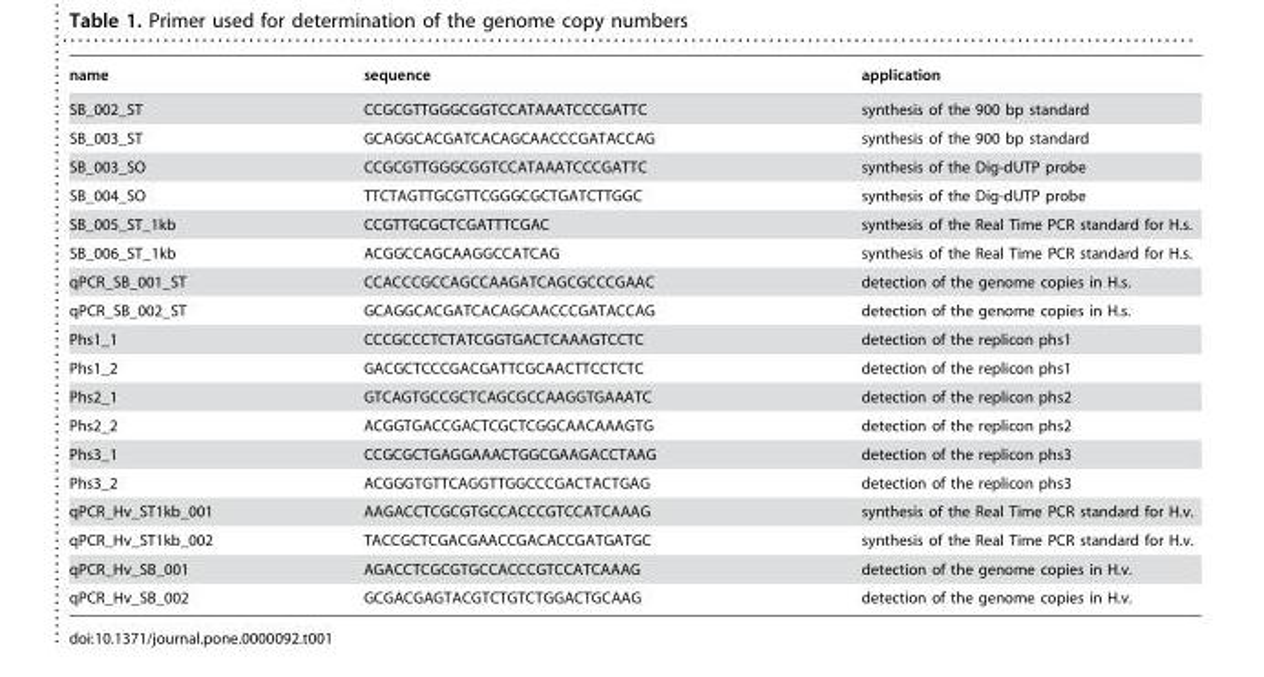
<table><thead><tr><td>name</td><td>sequence</td><td>application</td></tr></thead><tbody><tr><td>SB_002_ST</td><td>CCGCGTTGGGCGGTCCATAAATCCCGATTC</td><td>synthesis of the 900 bp standard</td></tr><tr><td>SB_003_ST</td><td>GCAGGCACGATCACAGCAACCCGATACCAG</td><td>synthesis of the 900 bp standard</td></tr><tr><td>SB_003_SO</td><td>CCGCGTTGGGCGGTCCATAAATCCCGATTC</td><td>synthesis of the Dig-dUTP probe</td></tr><tr><td>SB_004_SO</td><td>TTCTAGTTGCGTTCGGGCGCTGATCTTGGC</td><td>synthesis of the Dig-dUTP probe</td></tr><tr><td>SB_005_ST_1kb</td><td>CCGTTGCGCTCGATTTCGAC</td><td>synthesis of the Real Time PCR standard for H.s.</td></tr><tr><td>SB_006_ST_1kb</td><td>ACGGCCAGCAAGGCCATCAG</td><td>synthesis of the Real Time PCR standard for H.s.</td></tr><tr><td>qPCR_SB_001_ST</td><td>CCACCCGCCAGCCAAGATCAGCGCCCGAAC</td><td>detection of the genome copies in H.s.</td></tr><tr><td>qPCR_SB_002_ST</td><td>GCAGGCACGATCACAGCAACCCGATACCAG</td><td>detection of the genome copies in H.s.</td></tr><tr><td>Phs1_1</td><td>CCCGCCCTCTATCGGTGACTCAAAGTCCTC</td><td>detection of the replicon phs1</td></tr><tr><td>Phs1_2</td><td>GACGCTCCCGACGATTCGCAACTTCCTCTC</td><td>detection of the replicon phs1</td></tr><tr><td>Phs2_1</td><td>GTCAGTGCCGCTCAGCGCCAAGGTGAAATC</td><td>detection of the replicon phs2</td></tr><tr><td>Phs2_2</td><td>ACGGTGACCGACTCGCTCGGCAACAAAGTG</td><td>detection of the replicon phs2</td></tr><tr><td>Phs3_1</td><td>CCGCGCTGAGGAAACTGGCGAAGACCTAAG</td><td>detection of the replicon phs3</td></tr><tr><td>Phs3_2</td><td>ACGGGTGTTCAGGTTGGCCCGACTACTGAG</td><td>detection of the replicon phs3</td></tr><tr><td>qPCR_Hv_ST1kb_001</td><td>AAGACCTCGCGTGCCACCCGTCCATCAAAG</td><td>synthesis of the Real Time PCR standard for H.v.</td></tr><tr><td>qPCR_Hv_ST1kb_002</td><td>TACCGCTCGACGAACCGACACCGATGATGC</td><td>synthesis of the Real Time PCR standard for H.v.</td></tr><tr><td>qPCR_Hv_SB_001</td><td>AGACCTCGCGTGCCACCCGTCCATCAAAG</td><td>detection of the genome copies in H.v.</td></tr><tr><td>qPCR_Hv_SB_002</td><td>GCGACGAGTACGTCTGTCTGGACTGCAAG</td><td>detection of the genome copies in H.v.</td></tr></tbody></table>